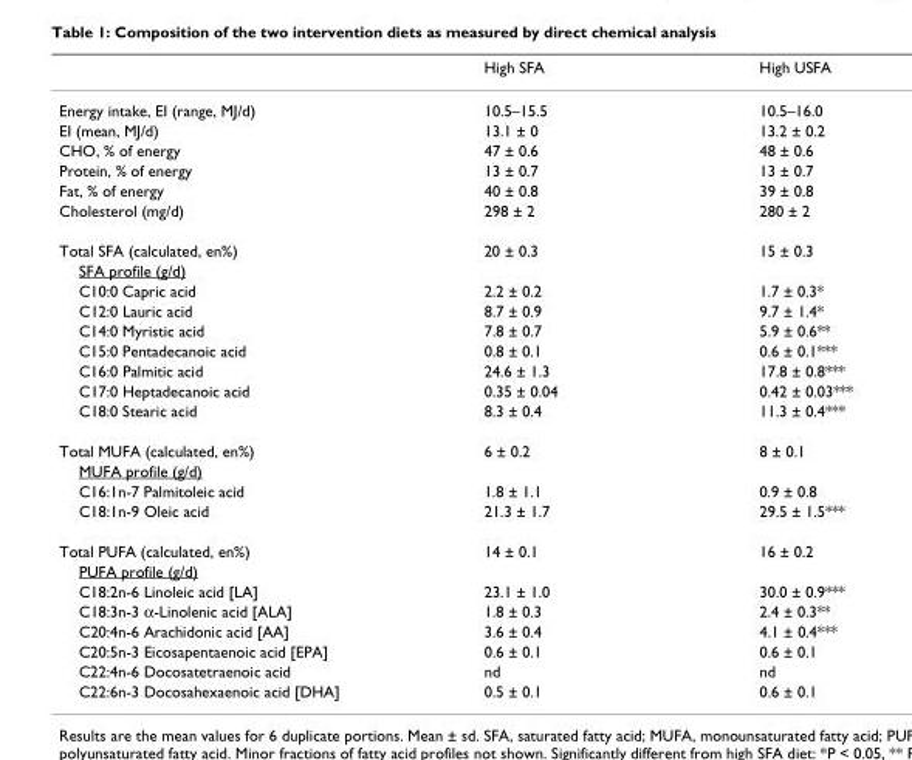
<table><thead><tr><td></td><td>High SFA</td><td>High USFA</td></tr></thead><tbody><tr><td>Energy intake, EI (range, MJ/d)</td><td>10.5–15.5</td><td>10.5–16.0</td></tr><tr><td>EI (mean, MJ/d)</td><td>13.1 ± 0</td><td>13.2 ± 0.2</td></tr><tr><td>CHO, % of energy</td><td>47 ± 0.6</td><td>48 ± 0.6</td></tr><tr><td>Protein, % of energy</td><td>13 ± 0.7</td><td>13 ± 0.7</td></tr><tr><td>Fat, % of energy</td><td>40 ± 0.8</td><td>39 ± 0.8</td></tr><tr><td>Cholesterol (mg/d)</td><td>298 ± 2</td><td>280 ± 2</td></tr><tr><td>Total SFA (calculated, en%)</td><td>20 ± 0.3</td><td>15 ± 0.3</td></tr><tr><td colspan="3">SFA profile (g/d)</td></tr><tr><td>C10:0 Capric acid</td><td>2.2 ± 0.2</td><td>1.7 ± 0.3*</td></tr><tr><td>C12:0 Lauric acid</td><td>8.7 ± 0.9</td><td>9.7 ± 1.4*</td></tr><tr><td>C14:0 Myristic acid</td><td>7.8 ± 0.7</td><td>5.9 ± 0.6**</td></tr><tr><td>C15:0 Pentadecanoic acid</td><td>0.8 ± 0.1</td><td>0.6 ± 0.1***</td></tr><tr><td>C16:0 Palmitic acid</td><td>24.6 ± 1.3</td><td>17.8 ± 0.8***</td></tr><tr><td>C17:0 Heptadecanoic acid</td><td>0.35 ± 0.04</td><td>0.42 ± 0.03***</td></tr><tr><td>C18:0 Stearic acid</td><td>8.3 ± 0.4</td><td>11.3 ± 0.4***</td></tr><tr><td>Total MUFA (calculated, en%)</td><td>6 ± 0.2</td><td>8 ± 0.1</td></tr><tr><td colspan="3">MUFA profile (g/d)</td></tr><tr><td>C16:1n-7 Palmitoleic acid</td><td>1.8 ± 1.1</td><td>0.9 ± 0.8</td></tr><tr><td>C18:1n-9 Oleic acid</td><td>21.3 ± 1.7</td><td>29.5 ± 1.5***</td></tr><tr><td>Total PUFA (calculated, en%)</td><td>14 ± 0.1</td><td>16 ± 0.2</td></tr><tr><td colspan="3">PUFA profile (g/d)</td></tr><tr><td>C18:2n-6 Linoleic acid [LA]</td><td>23.1 ± 1.0</td><td>30.0 ± 0.9***</td></tr><tr><td>C18:3n-3 α-Linolenic acid [ALA]</td><td>1.8 ± 0.3</td><td>2.4 ± 0.3**</td></tr><tr><td>C20:4n-6 Arachidonic acid [AA]</td><td>3.6 ± 0.4</td><td>4.1 ± 0.4***</td></tr><tr><td>C20:5n-3 Eicosapentaenoic acid [EPA]</td><td>0.6 ± 0.1</td><td>0.6 ± 0.1</td></tr><tr><td>C22:4n-6 Docosatetraenoic acid</td><td>nd</td><td>nd</td></tr><tr><td>C22:6n-3 Docosahexaenoic acid [DHA]</td><td>0.5 ± 0.1</td><td>0.6 ± 0.1</td></tr></tbody></table>